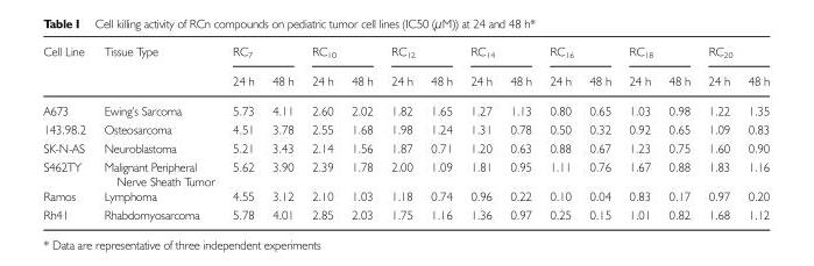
<table><thead><tr><td rowspan="2">Cell Line</td><td rowspan="2">Tissue Type</td><td colspan="2">RC<sub>7</sub></td><td colspan="2">RC<sub>10</sub></td><td colspan="2">RC<sub>12</sub></td><td colspan="2">RC<sub>14</sub></td><td colspan="2">RC<sub>16</sub></td><td colspan="2">RC<sub>18</sub></td><td colspan="2">RC<sub>20</sub></td></tr><tr><td>24 h</td><td>48 h</td><td>24 h</td><td>48 h</td><td>24 h</td><td>48 h</td><td>24 h</td><td>48 h</td><td>24 h</td><td>48 h</td><td>24 h</td><td>48 h</td><td>24 h</td><td>48 h</td></tr></thead><tbody><tr><td>A673</td><td>Ewing’s Sarcoma</td><td>5.73</td><td>4.11</td><td>2.60</td><td>2.02</td><td>1.82</td><td>1.65</td><td>1.27</td><td>1.13</td><td>0.80</td><td>0.65</td><td>1.03</td><td>0.98</td><td>1.22</td><td>1.35</td></tr><tr><td>143.98.2</td><td>Osteosarcoma</td><td>4.51</td><td>3.78</td><td>2.55</td><td>1.68</td><td>1.98</td><td>1.24</td><td>1.31</td><td>0.78</td><td>0.50</td><td>0.32</td><td>0.92</td><td>0.65</td><td>1.09</td><td>0.83</td></tr><tr><td>SK-N-AS</td><td>Neuroblastoma</td><td>5.21</td><td>3.43</td><td>2.14</td><td>1.56</td><td>1.87</td><td>0.71</td><td>1.20</td><td>0.63</td><td>0.88</td><td>0.67</td><td>1.23</td><td>0.75</td><td>1.60</td><td>0.90</td></tr><tr><td>S462TY</td><td>Malignant Peripheral Nerve Sheath Tumor</td><td>5.62</td><td>3.90</td><td>2.39</td><td>1.78</td><td>2.00</td><td>1.09</td><td>1.81</td><td>0.95</td><td>1.11</td><td>0.76</td><td>1.67</td><td>0.88</td><td>1.83</td><td>1.16</td></tr><tr><td>Ramos</td><td>Lymphoma</td><td>4.55</td><td>3.12</td><td>2.10</td><td>1.03</td><td>1.18</td><td>0.74</td><td>0.96</td><td>0.22</td><td>0.10</td><td>0.04</td><td>0.83</td><td>0.17</td><td>0.97</td><td>0.20</td></tr><tr><td>Rh41</td><td>Rhabdomyosarcoma</td><td>5.78</td><td>4.01</td><td>2.85</td><td>2.03</td><td>1.75</td><td>1.16</td><td>1.36</td><td>0.97</td><td>0.25</td><td>0.15</td><td>1.01</td><td>0.82</td><td>1.68</td><td>1.12</td></tr></tbody></table>